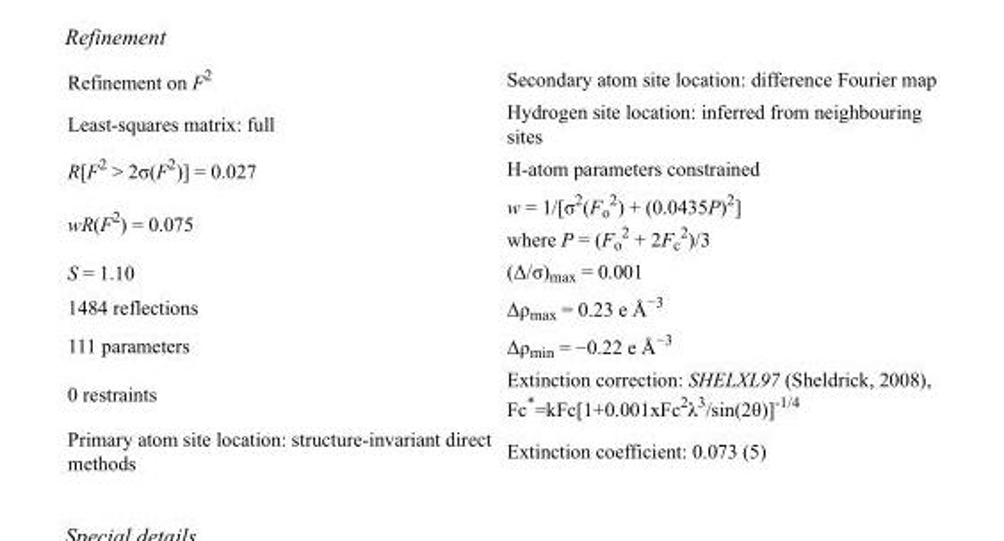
<table><tbody><tr><td>Refinement on F<sup>2</sup></td><td>Secondary atom site location: difference Fourier map</td></tr><tr><td>Least-squares matrix: full</td><td>Hydrogen site location: inferred from neighbouring sites</td></tr><tr><td>R[F<sup>2</sup> &gt; 2σ(F<sup>2</sup>)] = 0.027</td><td>H-atom parameters constrained</td></tr><tr><td>wR(F<sup>2</sup>) = 0.075</td><td>w = 1/[σ<sup>2</sup>(F<sub>o</sub> <sup>2</sup>) + (0.0435P)<sup>2</sup>] where P = (F<sub>o</sub> <sup>2</sup> + 2F<sub>c</sub> <sup>2</sup>)/3</td></tr><tr><td>S = 1.10</td><td>(Δ/σ)<sub>max</sub> = 0.001</td></tr><tr><td>1484 reflections</td><td>Δρ<sub>max</sub> = 0.23 e Å<sup>−3</sup></td></tr><tr><td>111 parameters</td><td>Δρ<sub>min</sub> = −0.22 e Å<sup>−3</sup></td></tr><tr><td>0 restraints</td><td>Extinction correction: SHELXL97 (Sheldrick, 2008), Fc*=kFc[1+0.001xFc<sup>2</sup>λ<sup>3</sup>/sin(2θ)]<sup>-1/4</sup></td></tr><tr><td>Primary atom site location: structure-invariant direct methods</td><td>Extinction coefficient: 0.073 (5)</td></tr></tbody></table>